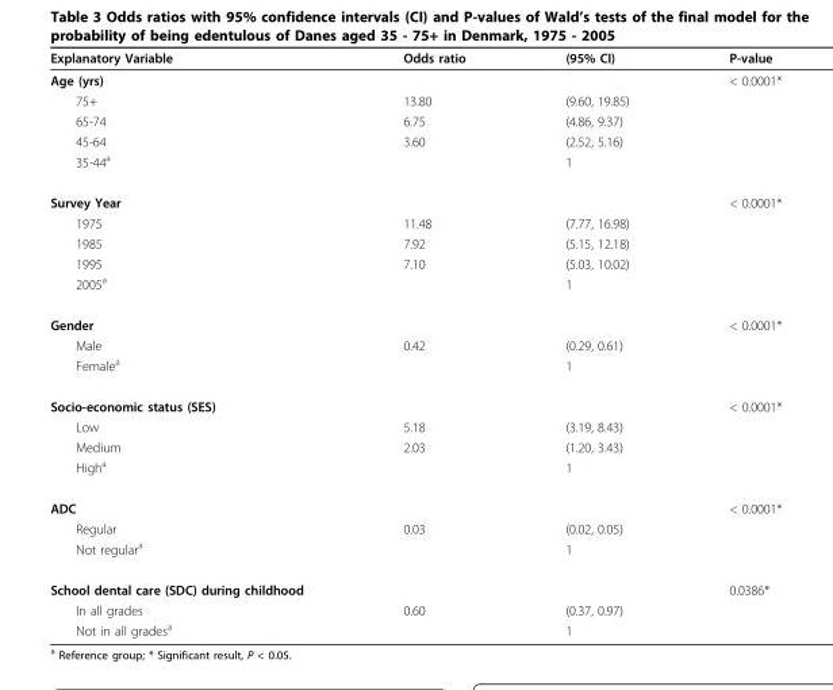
<table><thead><tr><td>Explanatory Variable</td><td>Odds ratio</td><td>(95% CI)</td><td>P-value</td></tr></thead><tbody><tr><td>Age (yrs)</td><td></td><td></td><td>&lt; 0.0001*</td></tr><tr><td>75+</td><td>13.80</td><td>(9.60, 19.85)</td><td></td></tr><tr><td>65-74</td><td>6.75</td><td>(4.86, 9.37)</td><td></td></tr><tr><td>45-64</td><td>3.60</td><td>(2.52, 5.16)</td><td></td></tr><tr><td>35-44<sup>a</sup></td><td></td><td>1</td><td></td></tr><tr><td>Survey Year</td><td></td><td></td><td>&lt; 0.0001*</td></tr><tr><td>1975</td><td>11.48</td><td>(7.77, 16.98)</td><td></td></tr><tr><td>1985</td><td>7.92</td><td>(5.15, 12.18)</td><td></td></tr><tr><td>1995</td><td>7.10</td><td>(5.03, 10.02)</td><td></td></tr><tr><td>2005<sup>a</sup></td><td></td><td>1</td><td></td></tr><tr><td>Gender</td><td></td><td></td><td>&lt; 0.0001*</td></tr><tr><td>Male</td><td>0.42</td><td>(0.29, 0.61)</td><td></td></tr><tr><td>Female<sup>a</sup></td><td></td><td>1</td><td></td></tr><tr><td>Socio-economic status (SES)</td><td></td><td></td><td>&lt; 0.0001*</td></tr><tr><td>Low</td><td>5.18</td><td>(3.19, 8.43)</td><td></td></tr><tr><td>Medium</td><td>2.03</td><td>(1.20, 3.43)</td><td></td></tr><tr><td>High<sup>a</sup></td><td></td><td>1</td><td></td></tr><tr><td>ADC</td><td></td><td></td><td>&lt; 0.0001*</td></tr><tr><td>Regular</td><td>0.03</td><td>(0.02, 0.05)</td><td></td></tr><tr><td>Not regular<sup>a</sup></td><td></td><td>1</td><td></td></tr><tr><td>School dental care (SDC) during childhood</td><td></td><td></td><td>0.0386*</td></tr><tr><td>In all grades</td><td>0.60</td><td>(0.37, 0.97)</td><td></td></tr><tr><td>Not in all grades<sup>a</sup></td><td></td><td>1</td><td></td></tr></tbody></table>